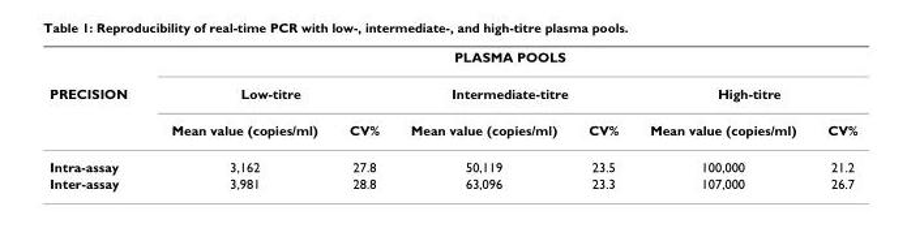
<table><thead><tr><td rowspan="3">PRECISION</td><td colspan="6">PLASMA POOLS</td></tr><tr><td colspan="2">Low-titre</td><td colspan="2">Intermediate-titre</td><td colspan="2">High-titre</td></tr><tr><td>Mean value (copies/ml)</td><td>CV%</td><td>Mean value (copies/ml)</td><td>CV%</td><td>Mean value (copies/ml)</td><td>CV%</td></tr></thead><tbody><tr><td>Intra-assay</td><td>3,162</td><td>27.8</td><td>50,119</td><td>23.5</td><td>100,000</td><td>21.2</td></tr><tr><td>Inter-assay</td><td>3,981</td><td>28.8</td><td>63,096</td><td>23.3</td><td>107,000</td><td>26.7</td></tr></tbody></table>